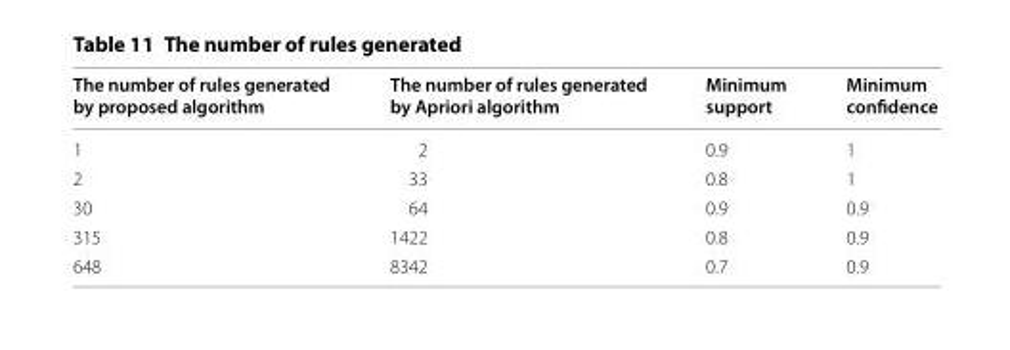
<table><thead><tr><td>The number of rules generated by proposed algorithm</td><td>The number of rules generated by Apriori algorithm</td><td>Minimum support</td><td>Minimum confidence</td></tr></thead><tbody><tr><td>1</td><td>2</td><td>0.9</td><td>1</td></tr><tr><td>2</td><td>33</td><td>0.8</td><td>1</td></tr><tr><td>30</td><td>64</td><td>0.9</td><td>0.9</td></tr><tr><td>315</td><td>1422</td><td>0.8</td><td>0.9</td></tr><tr><td>648</td><td>8342</td><td>0.7</td><td>0.9</td></tr></tbody></table>